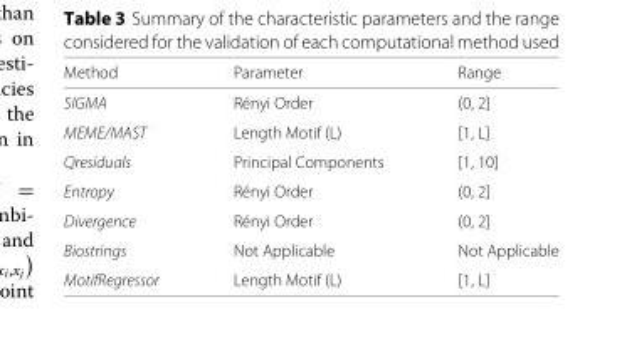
<table><thead><tr><td>Method</td><td>Parameter</td><td>Range</td></tr></thead><tbody><tr><td>SIGMA</td><td>Rényi Order</td><td>(0, 2]</td></tr><tr><td>MEME/MAST</td><td>Length Motif (L)</td><td>[1, L]</td></tr><tr><td>Qresiduals</td><td>Principal Components</td><td>[1, 10]</td></tr><tr><td>Entropy</td><td>Rényi Order</td><td>(0, 2]</td></tr><tr><td>Divergence</td><td>Rényi Order</td><td>(0, 2]</td></tr><tr><td>Biostrings</td><td>Not Applicable</td><td>Not Applicable</td></tr><tr><td>MotifRegressor</td><td>Length Motif (L)</td><td>[1, L]</td></tr></tbody></table>